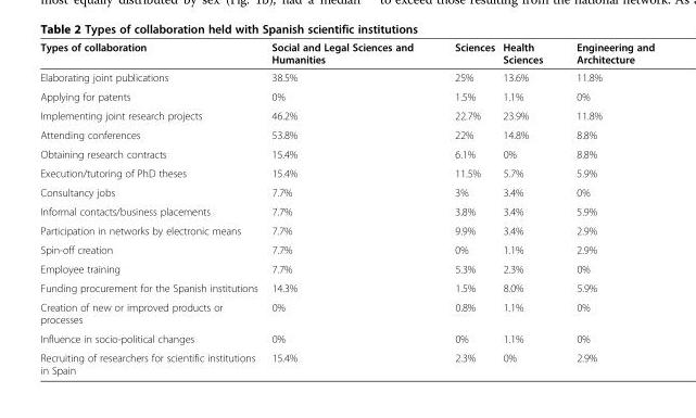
<table><thead><tr><td>Types of collaboration</td><td>Social and Legal Sciences and Humanities</td><td>Sciences</td><td>Health Sciences</td><td>Engineering and Architecture</td></tr></thead><tbody><tr><td>Elaborating joint publications</td><td>38.5%</td><td>25%</td><td>13.6%</td><td>11.8%</td></tr><tr><td>Applying for patents</td><td>0%</td><td>1.5%</td><td>1.1%</td><td>0%</td></tr><tr><td>Implementing joint research projects</td><td>46.2%</td><td>22.7%</td><td>23.9%</td><td>11.8%</td></tr><tr><td>Attending conferences</td><td>53.8%</td><td>22%</td><td>14.8%</td><td>8.8%</td></tr><tr><td>Obtaining research contracts</td><td>15.4%</td><td>6.1%</td><td>0%</td><td>8.8%</td></tr><tr><td>Execution/tutoring of PhD theses</td><td>15.4%</td><td>11.5%</td><td>5.7%</td><td>5.9%</td></tr><tr><td>Consultancy jobs</td><td>7.7%</td><td>3%</td><td>3.4%</td><td>0%</td></tr><tr><td>Informal contacts/business placements</td><td>7.7%</td><td>3.8%</td><td>3.4%</td><td>5.9%</td></tr><tr><td>Participation in networks by electronic means</td><td>7.7%</td><td>9.9%</td><td>3.4%</td><td>2.9%</td></tr><tr><td>Spin-off creation</td><td>7.7%</td><td>0%</td><td>1.1%</td><td>2.9%</td></tr><tr><td>Employee training</td><td>7.7%</td><td>5.3%</td><td>2.3%</td><td>0%</td></tr><tr><td>Funding procurement for the Spanish institutions</td><td>14.3%</td><td>1.5%</td><td>8.0%</td><td>5.9%</td></tr><tr><td>Creation of new or improved products or processes</td><td>0%</td><td>0.8%</td><td>1.1%</td><td>0%</td></tr><tr><td>Influence in socio-political changes</td><td>0%</td><td>0%</td><td>1.1%</td><td>0%</td></tr><tr><td>Recruiting of researchers for scientific institutions in Spain</td><td>15.4%</td><td>2.3%</td><td>0%</td><td>2.9%</td></tr></tbody></table>